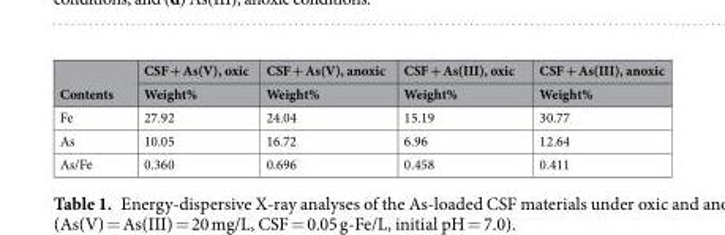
<table><thead><tr><td rowspan="2">Contents</td><td rowspan="2">CSF + As(V), oxic Weight%</td><td rowspan="2">CSF + As(V), anoxic Weight%</td><td rowspan="2">CSF + As(III), oxic Weight%</td><td rowspan="2">CSF + As(III), anoxic Weight%</td></tr><tr></tr></thead><tbody><tr><td>Fe</td><td>27.92</td><td>24.04</td><td>15.19</td><td>30.77</td></tr><tr><td>As</td><td>10.05</td><td>16.72</td><td>6.96</td><td>12.64</td></tr><tr><td>As/Fe</td><td>0.360</td><td>0.696</td><td>0.458</td><td>0.411</td></tr></tbody></table>